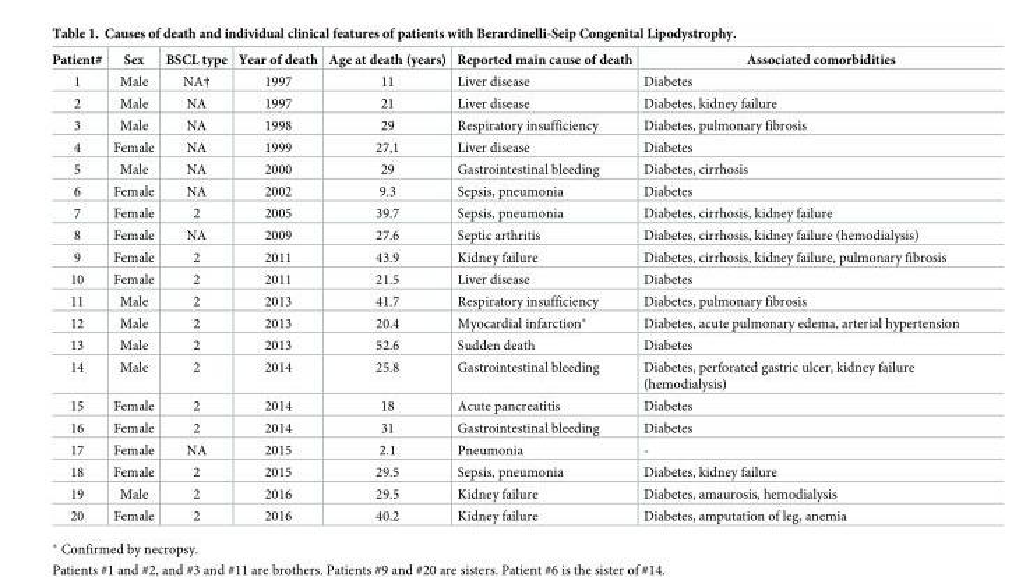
<table><thead><tr><td>Patient#</td><td>Sex</td><td>BSCL type</td><td>Year of death</td><td>Age at death (years)</td><td>Reported main cause of death</td><td>Associated comorbidities</td></tr></thead><tbody><tr><td>1</td><td>Male</td><td>NA†</td><td>1997</td><td>11</td><td>Liver disease</td><td>Diabetes</td></tr><tr><td>2</td><td>Male</td><td>NA</td><td>1997</td><td>21</td><td>Liver disease</td><td>Diabetes, kidney failure</td></tr><tr><td>3</td><td>Male</td><td>NA</td><td>1998</td><td>29</td><td>Respiratory insufficiency</td><td>Diabetes, pulmonary fibrosis</td></tr><tr><td>4</td><td>Female</td><td>NA</td><td>1999</td><td>27,1</td><td>Liver disease</td><td>Diabetes</td></tr><tr><td>5</td><td>Male</td><td>NA</td><td>2000</td><td>29</td><td>Gastrointestinal bleeding</td><td>Diabetes, cirrhosis</td></tr><tr><td>6</td><td>Female</td><td>NA</td><td>2002</td><td>9.3</td><td>Sepsis, pneumonia</td><td>Diabetes</td></tr><tr><td>7</td><td>Female</td><td>2</td><td>2005</td><td>39.7</td><td>Sepsis, pneumonia</td><td>Diabetes, cirrhosis, kidney failure</td></tr><tr><td>8</td><td>Female</td><td>NA</td><td>2009</td><td>27.6</td><td>Septic arthritis</td><td>Diabetes, cirrhosis, kidney failure (hemodialysis)</td></tr><tr><td>9</td><td>Female</td><td>2</td><td>2011</td><td>43.9</td><td>Kidney failure</td><td>Diabetes, cirrhosis, kidney failure, pulmonary fibrosis</td></tr><tr><td>10</td><td>Female</td><td>2</td><td>2011</td><td>21.5</td><td>Liver disease</td><td>Diabetes</td></tr><tr><td>11</td><td>Male</td><td>2</td><td>2013</td><td>41.7</td><td>Respiratory insufficiency</td><td>Diabetes, pulmonary fibrosis</td></tr><tr><td>12</td><td>Male</td><td>2</td><td>2013</td><td>20.4</td><td>Myocardial infarction*</td><td>Diabetes, acute pulmonary edema, arterial hypertension</td></tr><tr><td>13</td><td>Male</td><td>2</td><td>2013</td><td>52.6</td><td>Sudden death</td><td>Diabetes</td></tr><tr><td>14</td><td>Male</td><td>2</td><td>2014</td><td>25.8</td><td>Gastrointestinal bleeding</td><td>Diabetes, perforated gastric ulcer, kidney failure (hemodialysis)</td></tr><tr><td>15</td><td>Female</td><td>2</td><td>2014</td><td>18</td><td>Acute pancreatitis</td><td>Diabetes</td></tr><tr><td>16</td><td>Female</td><td>2</td><td>2014</td><td>31</td><td>Gastrointestinal bleeding</td><td>Diabetes</td></tr><tr><td>17</td><td>Female</td><td>NA</td><td>2015</td><td>2.1</td><td>Pneumonia</td><td>-</td></tr><tr><td>18</td><td>Female</td><td>2</td><td>2015</td><td>29.5</td><td>Sepsis, pneumonia</td><td>Diabetes, kidney failure</td></tr><tr><td>19</td><td>Male</td><td>2</td><td>2016</td><td>29.5</td><td>Kidney failure</td><td>Diabetes, amaurosis, hemodialysis</td></tr><tr><td>20</td><td>Female</td><td>2</td><td>2016</td><td>40.2</td><td>Kidney failure</td><td>Diabetes, amputation of leg, anemia</td></tr></tbody></table>